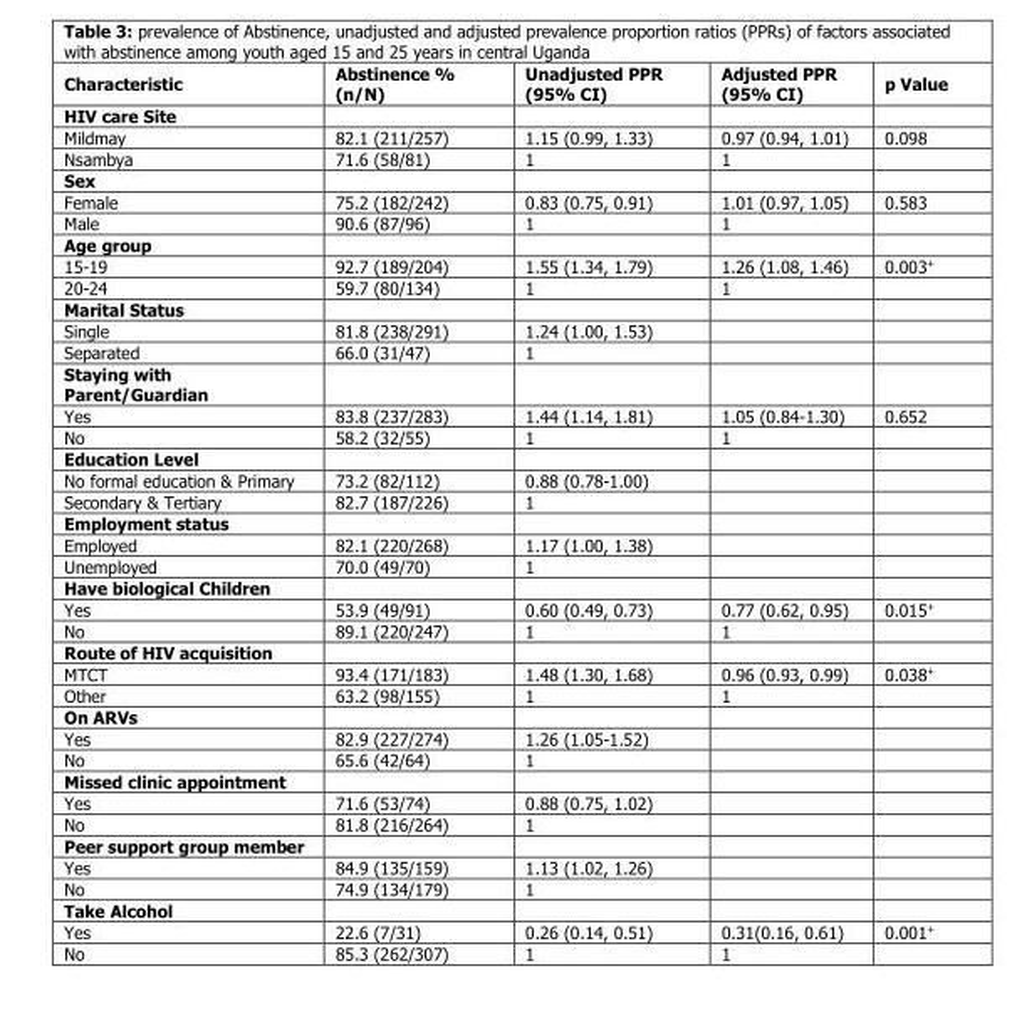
<table><thead><tr><td>Characteristic</td><td>Abstinence % (n/N)</td><td>Unadjusted PPR (95% CI)</td><td>Adjusted PPR (95% CI)</td><td>p Value</td></tr></thead><tbody><tr><td colspan="5">HIV care Site</td></tr><tr><td>Mildmay</td><td>82.1 (211/257)</td><td>1.15 (0.99, 1.33)</td><td>0.97 (0.94, 1.01)</td><td>0.098</td></tr><tr><td>Nsambya</td><td>71.6 (58/81)</td><td>1</td><td>1</td><td></td></tr><tr><td colspan="5">Sex</td></tr><tr><td>Female</td><td>75.2 (182/242)</td><td>0.83 (0.75, 0.91)</td><td>1.01 (0.97, 1.05)</td><td>0.583</td></tr><tr><td>Male</td><td>90.6 (87/96)</td><td>1</td><td>1</td><td></td></tr><tr><td colspan="5">Age group</td></tr><tr><td>15-19</td><td>92.7 (189/204)</td><td>1.55 (1.34, 1.79)</td><td>1.26 (1.08, 1.46)</td><td>0.003<sup>+</sup></td></tr><tr><td>20-24</td><td>59.7 (80/134)</td><td>1</td><td>1</td><td></td></tr><tr><td colspan="5">Marital Status</td></tr><tr><td>Single</td><td>81.8 (238/291)</td><td>1.24 (1.00, 1.53)</td><td></td><td></td></tr><tr><td>Separated</td><td>66.0 (31/47)</td><td>1</td><td></td><td></td></tr><tr><td colspan="5">Staying with Parent/Guardian</td></tr><tr><td>Yes</td><td>83.8 (237/283)</td><td>1.44 (1.14, 1.81)</td><td>1.05 (0.84-1.30)</td><td>0.652</td></tr><tr><td>No</td><td>58.2 (32/55)</td><td>1</td><td>1</td><td></td></tr><tr><td colspan="5">Education Level</td></tr><tr><td>No formal education &amp; Primary</td><td>73.2 (82/112)</td><td>0.88 (0.78-1.00)</td><td></td><td></td></tr><tr><td>Secondary &amp; Tertiary</td><td>82.7 (187/226)</td><td>1</td><td></td><td></td></tr><tr><td colspan="5">Employment status</td></tr><tr><td>Employed</td><td>82.1 (220/268)</td><td>1.17 (1.00, 1.38)</td><td></td><td></td></tr><tr><td>Unemployed</td><td>70.0 (49/70)</td><td>1</td><td></td><td></td></tr><tr><td colspan="5">Have biological Children</td></tr><tr><td>Yes</td><td>53.9 (49/91)</td><td>0.60 (0.49, 0.73)</td><td>0.77 (0.62, 0.95)</td><td>0.015<sup>+</sup></td></tr><tr><td>No</td><td>89.1 (220/247)</td><td>1</td><td>1</td><td></td></tr><tr><td colspan="5">Route of HIV acquisition</td></tr><tr><td>MTCT</td><td>93.4 (171/183)</td><td>1.48 (1.30, 1.68)</td><td>0.96 (0.93, 0.99)</td><td>0.038<sup>+</sup></td></tr><tr><td>Other</td><td>63.2 (98/155)</td><td>1</td><td>1</td><td></td></tr><tr><td colspan="5">On ARVs</td></tr><tr><td>Yes</td><td>82.9 (227/274)</td><td>1.26 (1.05-1.52)</td><td></td><td></td></tr><tr><td>No</td><td>65.6 (42/64)</td><td>1</td><td></td><td></td></tr><tr><td colspan="5">Missed clinic appointment</td></tr><tr><td>Yes</td><td>71.6 (53/74)</td><td>0.88 (0.75, 1.02)</td><td></td><td></td></tr><tr><td>No</td><td>81.8 (216/264)</td><td>1</td><td></td><td></td></tr><tr><td colspan="5">Peer support group member</td></tr><tr><td>Yes</td><td>84.9 (135/159)</td><td>1.13 (1.02, 1.26)</td><td></td><td></td></tr><tr><td>No</td><td>74.9 (134/179)</td><td>1</td><td></td><td></td></tr><tr><td colspan="5">Take Alcohol</td></tr><tr><td>Yes</td><td>22.6 (7/31)</td><td>0.26 (0.14, 0.51)</td><td>0.31(0.16, 0.61)</td><td>0.001<sup>+</sup></td></tr><tr><td>No</td><td>85.3 (262/307)</td><td>1</td><td>1</td><td></td></tr></tbody></table>